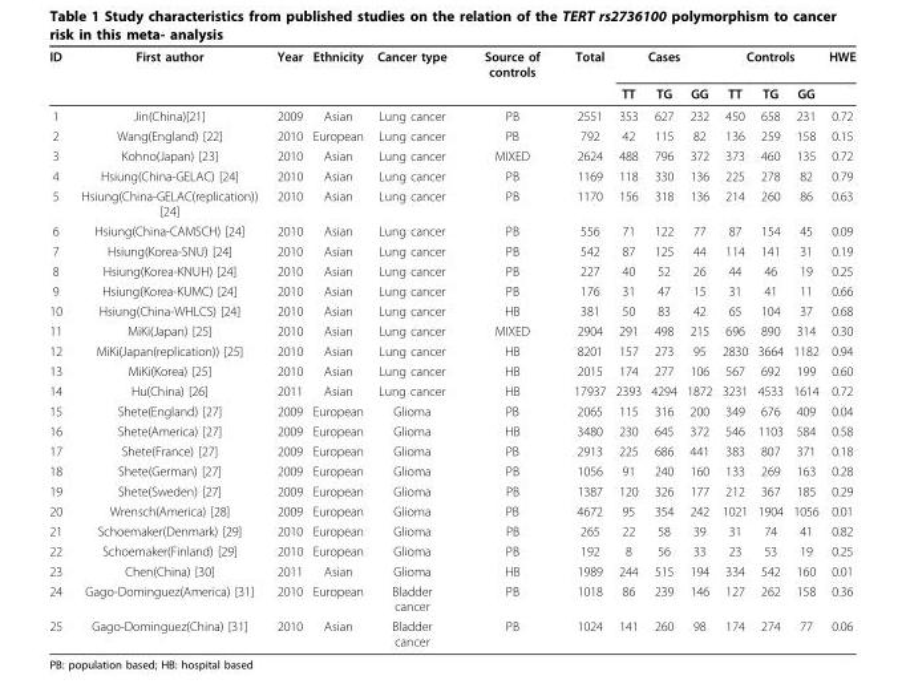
<table><thead><tr><td rowspan="2">ID</td><td rowspan="2">First author</td><td rowspan="2">Year</td><td rowspan="2">Ethnicity</td><td rowspan="2">Cancer type</td><td rowspan="2">Source of controls</td><td rowspan="2">Total</td><td colspan="3">Cases</td><td colspan="3">Controls</td><td rowspan="2">HWE</td></tr><tr><td>TT</td><td>TG</td><td>GG</td><td>TT</td><td>TG</td><td>GG</td></tr></thead><tbody><tr><td>1</td><td>Jin(China)[21]</td><td>2009</td><td>Asian</td><td>Lung cancer</td><td>PB</td><td>2551</td><td>353</td><td>627</td><td>232</td><td>450</td><td>658</td><td>231</td><td>0.72</td></tr><tr><td>2</td><td>Wang(England) [22]</td><td>2010</td><td>European</td><td>Lung cancer</td><td>PB</td><td>792</td><td>42</td><td>115</td><td>82</td><td>136</td><td>259</td><td>158</td><td>0.15</td></tr><tr><td>3</td><td>Kohno(Japan) [23]</td><td>2010</td><td>Asian</td><td>Lung cancer</td><td>MIXED</td><td>2624</td><td>488</td><td>796</td><td>372</td><td>373</td><td>460</td><td>135</td><td>0.72</td></tr><tr><td>4</td><td>Hsiung(China-GELAC) [24]</td><td>2010</td><td>Asian</td><td>Lung cancer</td><td>PB</td><td>1169</td><td>118</td><td>330</td><td>136</td><td>225</td><td>278</td><td>82</td><td>0.79</td></tr><tr><td>5</td><td>Hsiung(China-GELAC(replication)) [24]</td><td>2010</td><td>Asian</td><td>Lung cancer</td><td>PB</td><td>1170</td><td>156</td><td>318</td><td>136</td><td>214</td><td>260</td><td>86</td><td>0.63</td></tr><tr><td>6</td><td>Hsiung(China-CAMSCH) [24]</td><td>2010</td><td>Asian</td><td>Lung cancer</td><td>PB</td><td>556</td><td>71</td><td>122</td><td>77</td><td>87</td><td>154</td><td>45</td><td>0.09</td></tr><tr><td>7</td><td>Hsiung(Korea-SNU) [24]</td><td>2010</td><td>Asian</td><td>Lung cancer</td><td>PB</td><td>542</td><td>87</td><td>125</td><td>44</td><td>114</td><td>141</td><td>31</td><td>0.19</td></tr><tr><td>8</td><td>Hsiung(Korea-KNUH) [24]</td><td>2010</td><td>Asian</td><td>Lung cancer</td><td>PB</td><td>227</td><td>40</td><td>52</td><td>26</td><td>44</td><td>46</td><td>19</td><td>0.25</td></tr><tr><td>9</td><td>Hsiung(Korea-KUMC) [24]</td><td>2010</td><td>Asian</td><td>Lung cancer</td><td>PB</td><td>176</td><td>31</td><td>47</td><td>15</td><td>31</td><td>41</td><td>11</td><td>0.66</td></tr><tr><td>10</td><td>Hsiung(China-WHLCS) [24]</td><td>2010</td><td>Asian</td><td>Lung cancer</td><td>HB</td><td>381</td><td>50</td><td>83</td><td>42</td><td>65</td><td>104</td><td>37</td><td>0.68</td></tr><tr><td>11</td><td>MiKi(Japan) [25]</td><td>2010</td><td>Asian</td><td>Lung cancer</td><td>MIXED</td><td>2904</td><td>291</td><td>498</td><td>215</td><td>696</td><td>890</td><td>314</td><td>0.30</td></tr><tr><td>12</td><td>MiKi(Japan(replication)) [25]</td><td>2010</td><td>Asian</td><td>Lung cancer</td><td>HB</td><td>8201</td><td>157</td><td>273</td><td>95</td><td>2830</td><td>3664</td><td>1182</td><td>0.94</td></tr><tr><td>13</td><td>MiKi(Korea) [25]</td><td>2010</td><td>Asian</td><td>Lung cancer</td><td>HB</td><td>2015</td><td>174</td><td>277</td><td>106</td><td>567</td><td>692</td><td>199</td><td>0.60</td></tr><tr><td>14</td><td>Hu(China) [26]</td><td>2011</td><td>Asian</td><td>Lung cancer</td><td>HB</td><td>17937</td><td>2393</td><td>4294</td><td>1872</td><td>3231</td><td>4533</td><td>1614</td><td>0.72</td></tr><tr><td>15</td><td>Shete(England) [27]</td><td>2009</td><td>European</td><td>Glioma</td><td>PB</td><td>2065</td><td>115</td><td>316</td><td>200</td><td>349</td><td>676</td><td>409</td><td>0.04</td></tr><tr><td>16</td><td>Shete(America) [27]</td><td>2009</td><td>European</td><td>Glioma</td><td>HB</td><td>3480</td><td>230</td><td>645</td><td>372</td><td>546</td><td>1103</td><td>584</td><td>0.58</td></tr><tr><td>17</td><td>Shete(France) [27]</td><td>2009</td><td>European</td><td>Glioma</td><td>PB</td><td>2913</td><td>225</td><td>686</td><td>441</td><td>383</td><td>807</td><td>371</td><td>0.18</td></tr><tr><td>18</td><td>Shete(German) [27]</td><td>2009</td><td>European</td><td>Glioma</td><td>PB</td><td>1056</td><td>91</td><td>240</td><td>160</td><td>133</td><td>269</td><td>163</td><td>0.28</td></tr><tr><td>19</td><td>Shete(Sweden) [27]</td><td>2009</td><td>European</td><td>Glioma</td><td>PB</td><td>1387</td><td>120</td><td>326</td><td>177</td><td>212</td><td>367</td><td>185</td><td>0.29</td></tr><tr><td>20</td><td>Wrensch(America) [28]</td><td>2009</td><td>European</td><td>Glioma</td><td>PB</td><td>4672</td><td>95</td><td>354</td><td>242</td><td>1021</td><td>1904</td><td>1056</td><td>0.01</td></tr><tr><td>21</td><td>Schoemaker(Denmark) [29]</td><td>2010</td><td>European</td><td>Glioma</td><td>PB</td><td>265</td><td>22</td><td>58</td><td>39</td><td>31</td><td>74</td><td>41</td><td>0.82</td></tr><tr><td>22</td><td>Schoemaker(Finland) [29]</td><td>2010</td><td>European</td><td>Glioma</td><td>PB</td><td>192</td><td>8</td><td>56</td><td>33</td><td>23</td><td>53</td><td>19</td><td>0.25</td></tr><tr><td>23</td><td>Chen(China) [30]</td><td>2011</td><td>Asian</td><td>Glioma</td><td>HB</td><td>1989</td><td>244</td><td>515</td><td>194</td><td>334</td><td>542</td><td>160</td><td>0.01</td></tr><tr><td>24</td><td>Gago-Dominguez(America) [31]</td><td>2010</td><td>European</td><td>Bladder cancer</td><td>PB</td><td>1018</td><td>86</td><td>239</td><td>146</td><td>127</td><td>262</td><td>158</td><td>0.36</td></tr><tr><td>25</td><td>Gago-Dominguez(China) [31]</td><td>2010</td><td>Asian</td><td>Bladder cancer</td><td>PB</td><td>1024</td><td>141</td><td>260</td><td>98</td><td>174</td><td>274</td><td>77</td><td>0.06</td></tr></tbody></table>